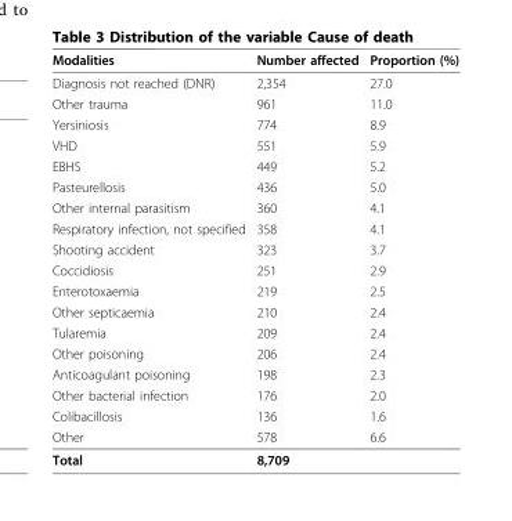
<table><thead><tr><td>Modalities</td><td>Number affected</td><td>Proportion (%)</td></tr></thead><tbody><tr><td>Diagnosis not reached (DNR)</td><td>2,354</td><td>27.0</td></tr><tr><td>Other trauma</td><td>961</td><td>11.0</td></tr><tr><td>Yersiniosis</td><td>774</td><td>8.9</td></tr><tr><td>VHD</td><td>551</td><td>5.9</td></tr><tr><td>EBHS</td><td>449</td><td>5.2</td></tr><tr><td>Pasteurellosis</td><td>436</td><td>5.0</td></tr><tr><td>Other internal parasitism</td><td>360</td><td>4.1</td></tr><tr><td>Respiratory infection, not specified</td><td>358</td><td>4.1</td></tr><tr><td>Shooting accident</td><td>323</td><td>3.7</td></tr><tr><td>Coccidiosis</td><td>251</td><td>2.9</td></tr><tr><td>Enterotoxaemia</td><td>219</td><td>2.5</td></tr><tr><td>Other septicaemia</td><td>210</td><td>2.4</td></tr><tr><td>Tularemia</td><td>209</td><td>2.4</td></tr><tr><td>Other poisoning</td><td>206</td><td>2.4</td></tr><tr><td>Anticoagulant poisoning</td><td>198</td><td>2.3</td></tr><tr><td>Other bacterial infection</td><td>176</td><td>2.0</td></tr><tr><td>Colibacillosis</td><td>136</td><td>1.6</td></tr><tr><td>Other</td><td>578</td><td>6.6</td></tr><tr><td>Total</td><td>8,709</td><td></td></tr></tbody></table>